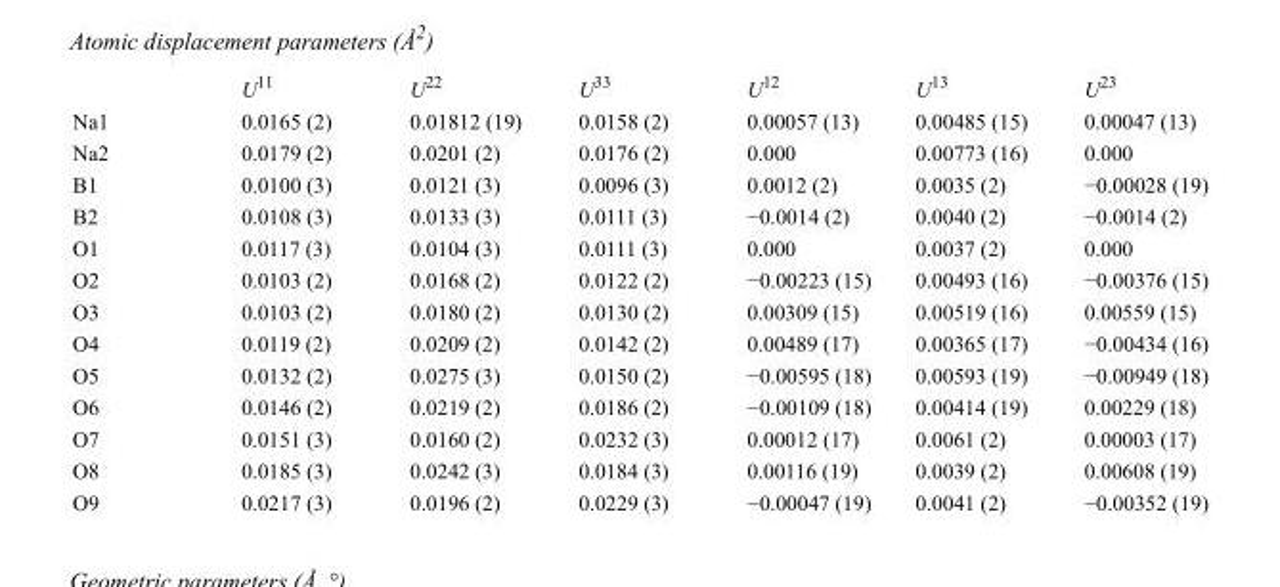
<table><thead><tr><td></td><td>U<sup>11</sup></td><td>U<sup>22</sup></td><td>U<sup>33</sup></td><td>U<sup>12</sup></td><td>U<sup>13</sup></td><td>U<sup>23</sup></td></tr></thead><tbody><tr><td>Na1</td><td>0.0165 (2)</td><td>0.01812 (19)</td><td>0.0158 (2)</td><td>0.00057 (13)</td><td>0.00485 (15)</td><td>0.00047 (13)</td></tr><tr><td>Na2</td><td>0.0179 (2)</td><td>0.0201 (2)</td><td>0.0176 (2)</td><td>0.000</td><td>0.00773 (16)</td><td>0.000</td></tr><tr><td>B1</td><td>0.0100 (3)</td><td>0.0121 (3)</td><td>0.0096 (3)</td><td>0.0012 (2)</td><td>0.0035 (2)</td><td>−0.00028 (19)</td></tr><tr><td>B2</td><td>0.0108 (3)</td><td>0.0133 (3)</td><td>0.0111 (3)</td><td>−0.0014 (2)</td><td>0.0040 (2)</td><td>−0.0014 (2)</td></tr><tr><td>O1</td><td>0.0117 (3)</td><td>0.0104 (3)</td><td>0.0111 (3)</td><td>0.000</td><td>0.0037 (2)</td><td>0.000</td></tr><tr><td>O2</td><td>0.0103 (2)</td><td>0.0168 (2)</td><td>0.0122 (2)</td><td>−0.00223 (15)</td><td>0.00493 (16)</td><td>−0.00376 (15)</td></tr><tr><td>O3</td><td>0.0103 (2)</td><td>0.0180 (2)</td><td>0.0130 (2)</td><td>0.00309 (15)</td><td>0.00519 (16)</td><td>0.00559 (15)</td></tr><tr><td>O4</td><td>0.0119 (2)</td><td>0.0209 (2)</td><td>0.0142 (2)</td><td>0.00489 (17)</td><td>0.00365 (17)</td><td>−0.00434 (16)</td></tr><tr><td>O5</td><td>0.0132 (2)</td><td>0.0275 (3)</td><td>0.0150 (2)</td><td>−0.00595 (18)</td><td>0.00593 (19)</td><td>−0.00949 (18)</td></tr><tr><td>O6</td><td>0.0146 (2)</td><td>0.0219 (2)</td><td>0.0186 (2)</td><td>−0.00109 (18)</td><td>0.00414 (19)</td><td>0.00229 (18)</td></tr><tr><td>O7</td><td>0.0151 (3)</td><td>0.0160 (2)</td><td>0.0232 (3)</td><td>0.00012 (17)</td><td>0.0061 (2)</td><td>0.00003 (17)</td></tr><tr><td>O8</td><td>0.0185 (3)</td><td>0.0242 (3)</td><td>0.0184 (3)</td><td>0.00116 (19)</td><td>0.0039 (2)</td><td>0.00608 (19)</td></tr><tr><td>O9</td><td>0.0217 (3)</td><td>0.0196 (2)</td><td>0.0229 (3)</td><td>−0.00047 (19)</td><td>0.0041 (2)</td><td>−0.00352 (19)</td></tr></tbody></table>